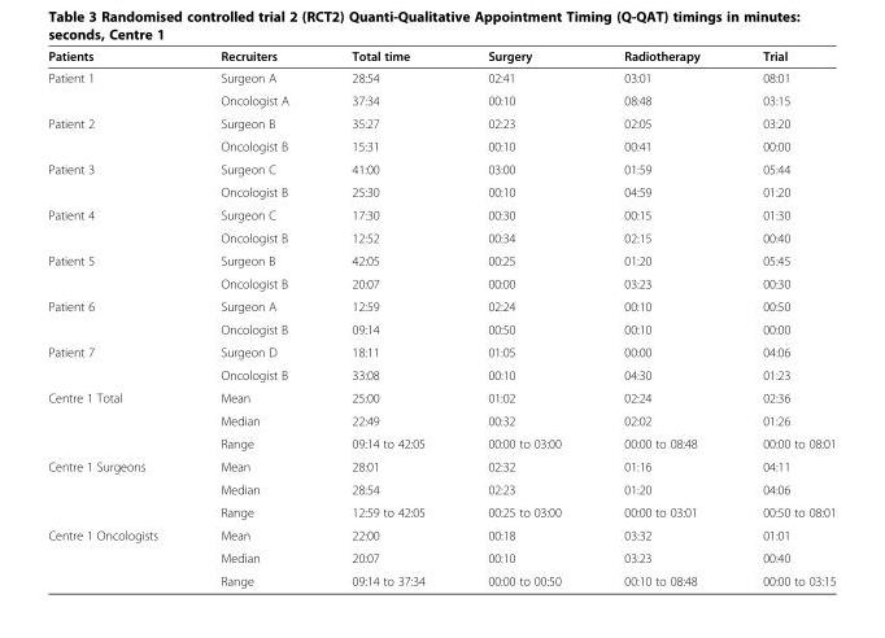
<table><thead><tr><td>Patients</td><td>Recruiters</td><td>Total time</td><td>Surgery</td><td>Radiotherapy</td><td>Trial</td></tr></thead><tbody><tr><td rowspan="2">Patient 1</td><td>Surgeon A</td><td>28:54</td><td>02:41</td><td>03:01</td><td>08:01</td></tr><tr><td>Oncologist A</td><td>37:34</td><td>00:10</td><td>08:48</td><td>03:15</td></tr><tr><td rowspan="2">Patient 2</td><td>Surgeon B</td><td>35:27</td><td>02:23</td><td>02:05</td><td>03:20</td></tr><tr><td>Oncologist B</td><td>15:31</td><td>00:10</td><td>00:41</td><td>00:00</td></tr><tr><td rowspan="2">Patient 3</td><td>Surgeon C</td><td>41:00</td><td>03:00</td><td>01:59</td><td>05:44</td></tr><tr><td>Oncologist B</td><td>25:30</td><td>00:10</td><td>04:59</td><td>01:20</td></tr><tr><td rowspan="2">Patient 4</td><td>Surgeon C</td><td>17:30</td><td>00:30</td><td>00:15</td><td>01:30</td></tr><tr><td>Oncologist B</td><td>12:52</td><td>00:34</td><td>02:15</td><td>00:40</td></tr><tr><td rowspan="2">Patient 5</td><td>Surgeon B</td><td>42:05</td><td>00:25</td><td>01:20</td><td>05:45</td></tr><tr><td>Oncologist B</td><td>20:07</td><td>00:00</td><td>03:23</td><td>00:30</td></tr><tr><td rowspan="2">Patient 6</td><td>Surgeon A</td><td>12:59</td><td>02:24</td><td>00:10</td><td>00:50</td></tr><tr><td>Oncologist B</td><td>09:14</td><td>00:50</td><td>00:10</td><td>00:00</td></tr><tr><td rowspan="2">Patient 7</td><td>Surgeon D</td><td>18:11</td><td>01:05</td><td>00:00</td><td>04:06</td></tr><tr><td>Oncologist B</td><td>33:08</td><td>00:10</td><td>04:30</td><td>01:23</td></tr><tr><td rowspan="3">Centre 1 Total</td><td>Mean</td><td>25:00</td><td>01:02</td><td>02:24</td><td>02:36</td></tr><tr><td>Median</td><td>22:49</td><td>00:32</td><td>02:02</td><td>01:26</td></tr><tr><td>Range</td><td>09:14 to 42:05</td><td>00:00 to 03:00</td><td>00:00 to 08:48</td><td>00:00 to 08:01</td></tr><tr><td rowspan="3">Centre 1 Surgeons</td><td>Mean</td><td>28:01</td><td>02:32</td><td>01:16</td><td>04:11</td></tr><tr><td>Median</td><td>28:54</td><td>02:23</td><td>01:20</td><td>04:06</td></tr><tr><td>Range</td><td>12:59 to 42:05</td><td>00:25 to 03:00</td><td>00:00 to 03:01</td><td>00:50 to 08:01</td></tr><tr><td rowspan="3">Centre 1 Oncologists</td><td>Mean</td><td>22:00</td><td>00:18</td><td>03:32</td><td>01:01</td></tr><tr><td>Median</td><td>20:07</td><td>00:10</td><td>03:23</td><td>00:40</td></tr><tr><td>Range</td><td>09:14 to 37:34</td><td>00:00 to 00:50</td><td>00:10 to 08:48</td><td>00:00 to 03:15</td></tr></tbody></table>